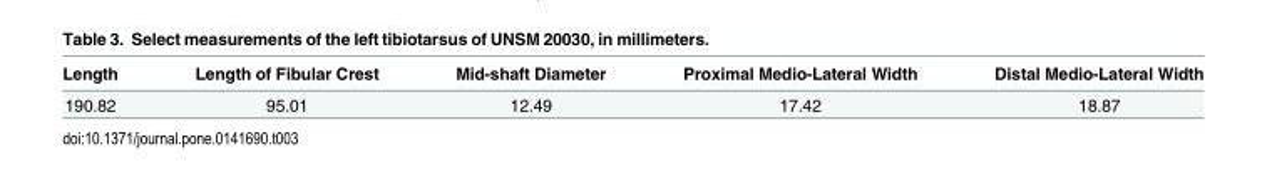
<table><thead><tr><td>Length</td><td>Length of Fibular Crest</td><td>Mid-shaft Diameter</td><td>Proximal Medio-Lateral Width</td><td>Distal Medio-Lateral Width</td></tr></thead><tbody><tr><td>190.82</td><td>95.01</td><td>12.49</td><td>17.42</td><td>18.87</td></tr></tbody></table>